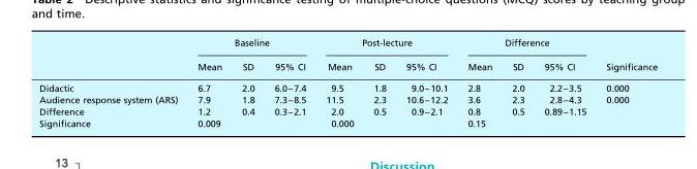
<table><thead><tr><td rowspan="2"></td><td colspan="3">Baseline</td><td colspan="3">Post-lecture</td><td colspan="3">Difference</td><td rowspan="2">Significance</td></tr><tr><td>Mean</td><td>SD</td><td>95% CI</td><td>Mean</td><td>SD</td><td>95% CI</td><td>Mean</td><td>SD</td><td>95% CI</td></tr></thead><tbody><tr><td>Didactic</td><td>6.7</td><td>2.0</td><td>6.0–7.4</td><td>9.5</td><td>1.8</td><td>9.0–10.1</td><td>2.8</td><td>2.0</td><td>2.2–3.5</td><td>0.000</td></tr><tr><td>Audience response system (ARS)</td><td>7.9</td><td>1.8</td><td>7.3–8.5</td><td>11.5</td><td>2.3</td><td>10.6–12.2</td><td>3.6</td><td>2.3</td><td>2.8–4.3</td><td>0.000</td></tr><tr><td>Difference</td><td>1.2</td><td>0.4</td><td>0.3–2.1</td><td>2.0</td><td>0.5</td><td>0.9–2.1</td><td>0.8</td><td>0.5</td><td>0.89–1.15</td><td></td></tr><tr><td>Significance</td><td>0.009</td><td></td><td></td><td>0.000</td><td></td><td></td><td>0.15</td><td></td><td></td><td></td></tr></tbody></table>